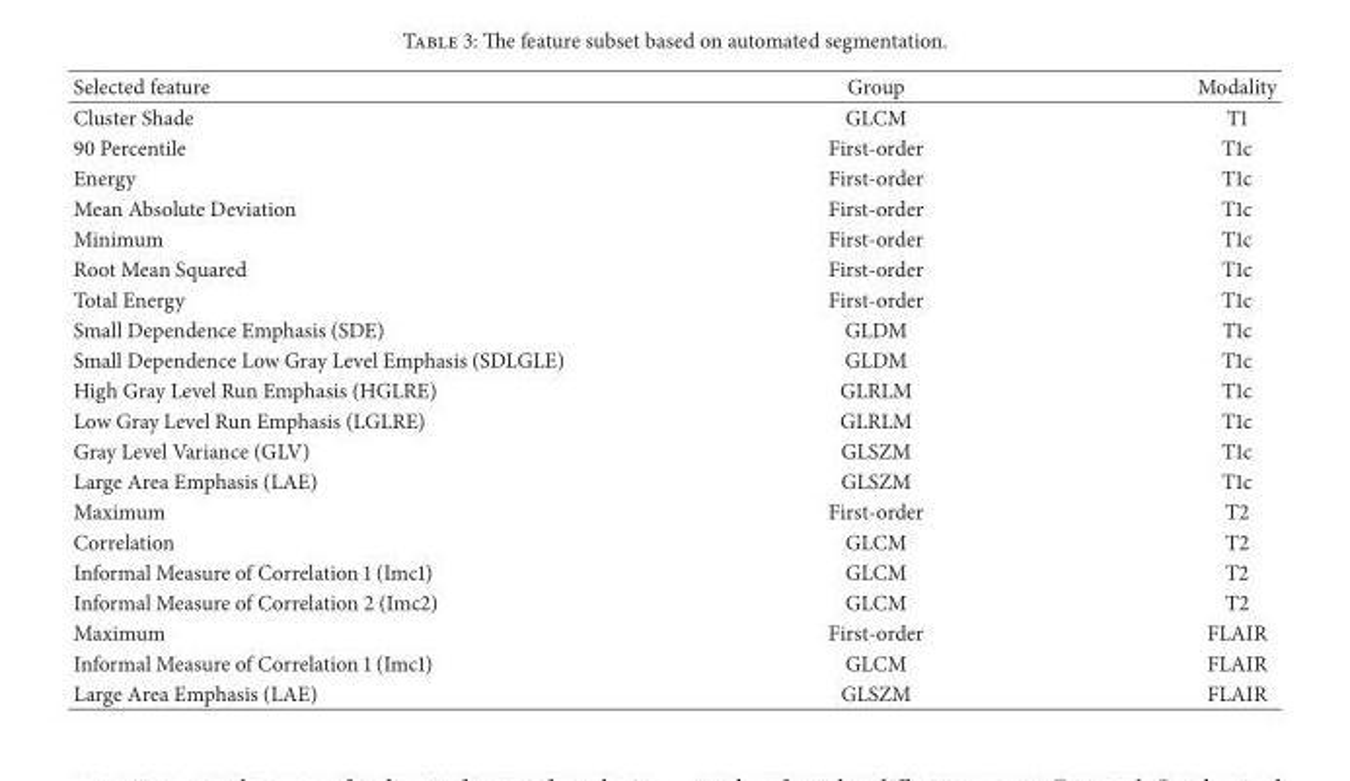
<table><thead><tr><td>Selected feature</td><td>Group</td><td>Modality</td></tr></thead><tbody><tr><td>Cluster Shade</td><td>GLCM</td><td>T1</td></tr><tr><td>90 Percentile</td><td>First-order</td><td>T1c</td></tr><tr><td>Energy</td><td>First-order</td><td>T1c</td></tr><tr><td>Mean Absolute Deviation</td><td>First-order</td><td>T1c</td></tr><tr><td>Minimum</td><td>First-order</td><td>T1c</td></tr><tr><td>Root Mean Squared</td><td>First-order</td><td>T1c</td></tr><tr><td>Total Energy</td><td>First-order</td><td>T1c</td></tr><tr><td>Small Dependence Emphasis (SDE)</td><td>GLDM</td><td>T1c</td></tr><tr><td>Small Dependence Low Gray Level Emphasis (SDLGLE)</td><td>GLDM</td><td>T1c</td></tr><tr><td>High Gray Level Run Emphasis (HGLRE)</td><td>GLRLM</td><td>T1c</td></tr><tr><td>Low Gray Level Run Emphasis (LGLRE)</td><td>GLRLM</td><td>T1c</td></tr><tr><td>Gray Level Variance (GLV)</td><td>GLSZM</td><td>T1c</td></tr><tr><td>Large Area Emphasis (LAE)</td><td>GLSZM</td><td>T1c</td></tr><tr><td>Maximum</td><td>First-order</td><td>T2</td></tr><tr><td>Correlation</td><td>GLCM</td><td>T2</td></tr><tr><td>Informal Measure of Correlation 1 (Imc1)</td><td>GLCM</td><td>T2</td></tr><tr><td>Informal Measure of Correlation 2 (Imc2)</td><td>GLCM</td><td>T2</td></tr><tr><td>Maximum</td><td>First-order</td><td>FLAIR</td></tr><tr><td>Informal Measure of Correlation 1 (Imc1)</td><td>GLCM</td><td>FLAIR</td></tr><tr><td>Large Area Emphasis (LAE)</td><td>GLSZM</td><td>FLAIR</td></tr></tbody></table>